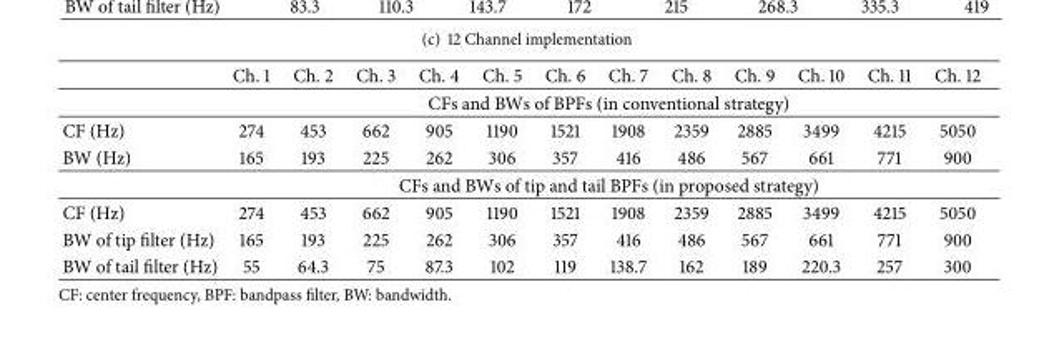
<table><thead><tr><td></td><td>Ch. 1</td><td>Ch. 2</td><td>Ch. 3</td><td>Ch. 4</td><td>Ch. 5</td><td>Ch. 6</td><td>Ch. 7</td><td>Ch. 8</td><td>Ch. 9</td><td>Ch. 10</td><td>Ch. 11</td><td>Ch. 12</td></tr></thead><tbody><tr><td></td><td colspan="12">CFs and BWs of BPFs (in conventional strategy)</td></tr><tr><td>CF (Hz)</td><td>274</td><td>453</td><td>662</td><td>905</td><td>1190</td><td>1521</td><td>1908</td><td>2359</td><td>2885</td><td>3499</td><td>4215</td><td>5050</td></tr><tr><td rowspan="2">BW (Hz)</td><td>165</td><td>193</td><td>225</td><td>262</td><td>306</td><td>357</td><td>416</td><td>486</td><td>567</td><td>661</td><td>771</td><td>900</td></tr><tr><td colspan="12">CFs and BWs of tip and tail BPFs (in proposed strategy)</td></tr><tr><td>CF (Hz)</td><td>274</td><td>453</td><td>662</td><td>905</td><td>1190</td><td>1521</td><td>1908</td><td>2359</td><td>2885</td><td>3499</td><td>4215</td><td>5050</td></tr><tr><td>BW of tip filter (Hz)</td><td>165</td><td>193</td><td>225</td><td>262</td><td>306</td><td>357</td><td>416</td><td>486</td><td>567</td><td>661</td><td>771</td><td>900</td></tr><tr><td>BW of tail filter (Hz)</td><td>55</td><td>64.3</td><td>75</td><td>87.3</td><td>102</td><td>119</td><td>138.7</td><td>162</td><td>189</td><td>220.3</td><td>257</td><td>300</td></tr></tbody></table>